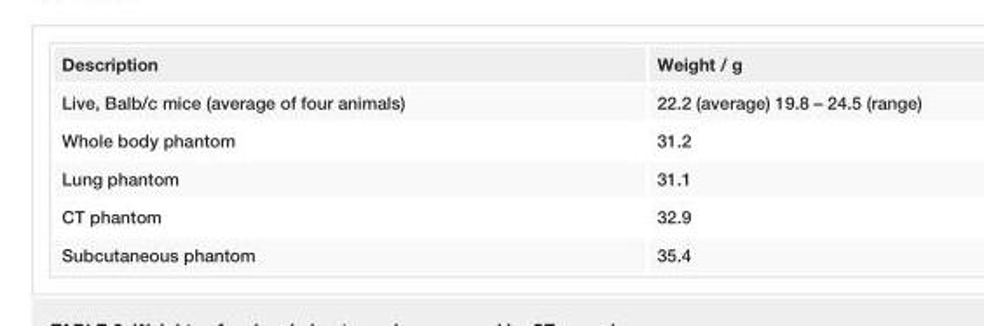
<table><tbody><tr><td>Description</td><td>Weight / g</td></tr><tr><td>Live, Balb/c mice (average of four animals)</td><td>22.2 (average) 19.8 – 24.5 (range)</td></tr><tr><td>Whole body phantom</td><td>31.2</td></tr><tr><td>Lung phantom</td><td>31.1</td></tr><tr><td>CT phantom</td><td>32.9</td></tr><tr><td>Subcutaneous phantom</td><td>35.4</td></tr></tbody></table>